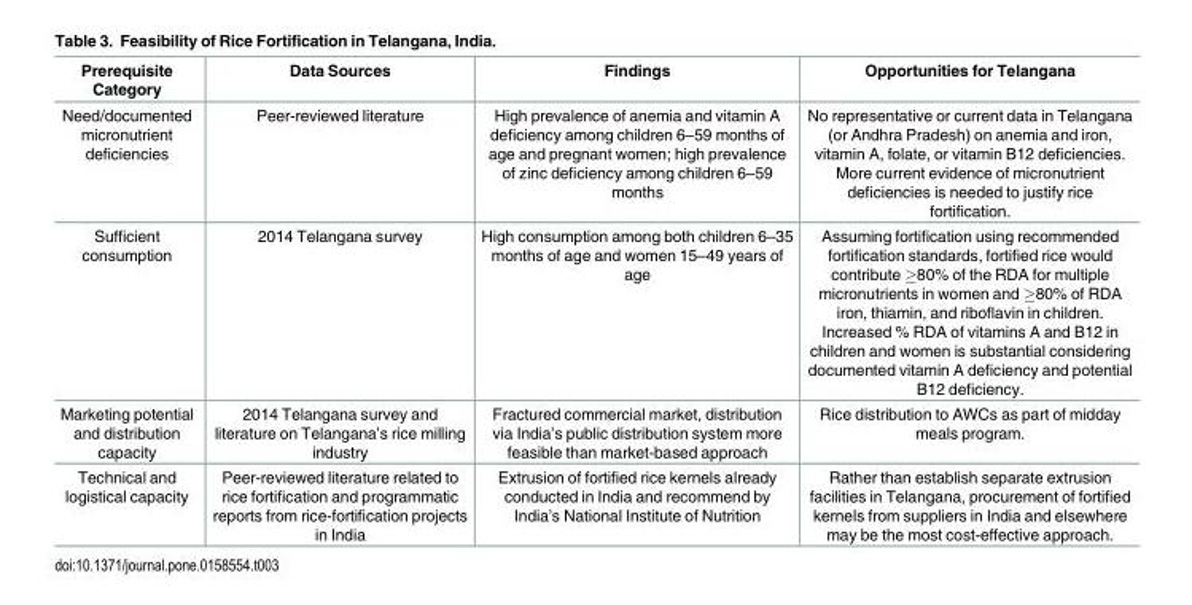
<table><thead><tr><td>Prerequisite Category</td><td>Data Sources</td><td>Findings</td><td>Opportunities for Telangana</td></tr></thead><tbody><tr><td>Need/documented micronutrient deficiencies</td><td>Peer-reviewed literature</td><td>High prevalence of anemia and vitamin A deficiency among children 6–59 months of age and pregnant women; high prevalence of zinc deficiency among children 6–59 months</td><td>No representative or current data in Telangana (or Andhra Pradesh) on anemia and iron, vitamin A, folate, or vitamin B12 deficiencies. More current evidence of micronutrient deficiencies is needed to justify rice fortification.</td></tr><tr><td>Sufficient consumption</td><td>2014 Telangana survey</td><td>High consumption among both children 6–35 months of age and women 15–49 years of age</td><td>Assuming fortification using recommended fortification standards, fortified rice would contribute ≥80% of the RDA for multiple micronutrients in women and ≥80% of RDA iron, thiamin, and riboflavin in children. Increased % RDA of vitamins A and B12 in children and women is substantial considering documented vitamin A deficiency and potential B12 deficiency.</td></tr><tr><td>Marketing potential and distribution capacity</td><td>2014 Telangana survey and literature on Telangana’s rice milling industry</td><td>Fractured commercial market, distribution via India’s public distribution system more feasible than market-based approach</td><td>Rice distribution to AWCs as part of midday meals program.</td></tr><tr><td>Technical and logistical capacity</td><td>Peer-reviewed literature related to rice fortification and programmatic reports from rice-fortification projects in India</td><td>Extrusion of fortified rice kernels already conducted in India and recommend by India’s National Institute of Nutrition</td><td>Rather than establish separate extrusion facilities in Telangana, procurement of fortified kernels from suppliers in India and elsewhere may be the most cost-effective approach.</td></tr></tbody></table>